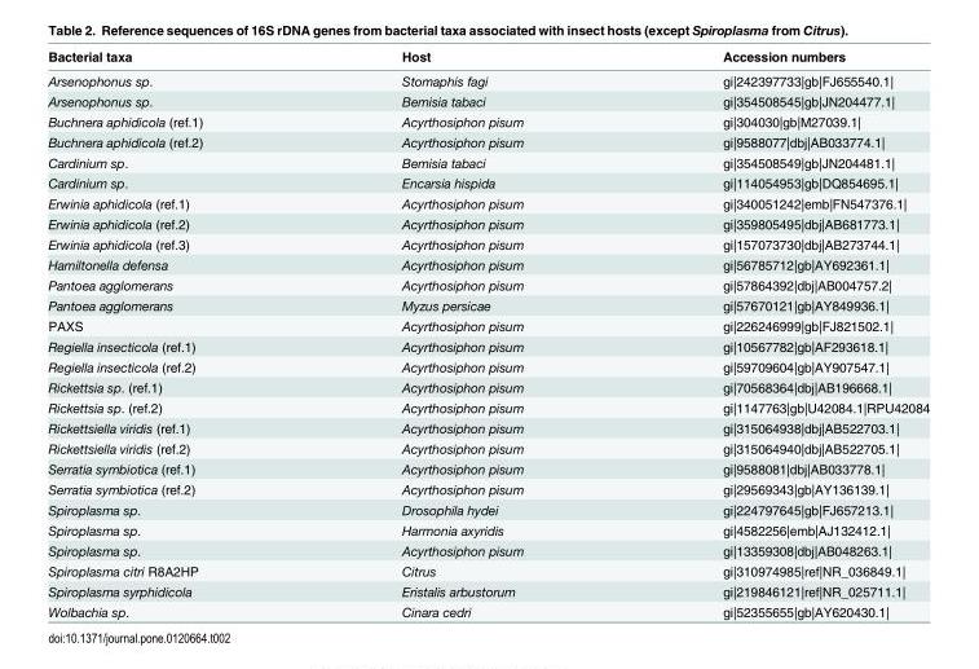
<table><thead><tr><td>Bacterial taxa</td><td>Host</td><td>Accession numbers</td></tr></thead><tbody><tr><td>Arsenophonus sp.</td><td>Stomaphis fagi</td><td>gi|242397733|gb|FJ655540.1|</td></tr><tr><td>Arsenophonus sp.</td><td>Bemisia tabaci</td><td>gi|354508545|gb|JN204477.1|</td></tr><tr><td>Buchnera aphidicola (ref.1)</td><td>Acyrthosiphon pisum</td><td>gi|304030|gb|M27039.1|</td></tr><tr><td>Buchnera aphidicola (ref.2)</td><td>Acyrthosiphon pisum</td><td>gi|9588077|dbj|AB033774.1|</td></tr><tr><td>Cardinium sp.</td><td>Bemisia tabaci</td><td>gi|354508549|gb|JN204481.1|</td></tr><tr><td>Cardinium sp.</td><td>Encarsia hispida</td><td>gi|114054953|gb|DQ854695.1|</td></tr><tr><td>Erwinia aphidicola (ref.1)</td><td>Acyrthosiphon pisum</td><td>gi|340051242|emb|FN547376.1|</td></tr><tr><td>Erwinia aphidicola (ref.2)</td><td>Acyrthosiphon pisum</td><td>gi|359805495|dbj|AB681773.1|</td></tr><tr><td>Erwinia aphidicola (ref.3)</td><td>Acyrthosiphon pisum</td><td>gi|157073730|dbj|AB273744.1|</td></tr><tr><td>Hamiltonella defensa</td><td>Acyrthosiphon pisum</td><td>gi|56785712|gb|AY692361.1|</td></tr><tr><td>Pantoea agglomerans</td><td>Acyrthosiphon pisum</td><td>gi|57864392|dbj|AB004757.2|</td></tr><tr><td>Pantoea agglomerans</td><td>Myzus persicae</td><td>gi|57670121|gb|AY849936.1|</td></tr><tr><td>PAXS</td><td>Acyrthosiphon pisum</td><td>gi|226246999|gb|FJ821502.1|</td></tr><tr><td>Regiella insecticola (ref.1)</td><td>Acyrthosiphon pisum</td><td>gi|10567782|gb|AF293618.1|</td></tr><tr><td>Regiella insecticola (ref.2)</td><td>Acyrthosiphon pisum</td><td>gi|59709604|gb|AY907547.1|</td></tr><tr><td>Rickettsia sp. (ref.1)</td><td>Acyrthosiphon pisum</td><td>gi|70568364|dbj|AB196668.1|</td></tr><tr><td>Rickettsia sp. (ref.2)</td><td>Acyrthosiphon pisum</td><td>gi|1147763|gb|U42084.1|RPU42084</td></tr><tr><td>Rickettsiella viridis (ref.1)</td><td>Acyrthosiphon pisum</td><td>gi|315064938|dbj|AB522703.1|</td></tr><tr><td>Rickettsiella viridis (ref.2)</td><td>Acyrthosiphon pisum</td><td>gi|315064940|dbj|AB522705.1|</td></tr><tr><td>Serratia symbiotica (ref.1)</td><td>Acyrthosiphon pisum</td><td>gi|9588081|dbj|AB033778.1|</td></tr><tr><td>Serratia symbiotica (ref.2)</td><td>Acyrthosiphon pisum</td><td>gi|29569343|gb|AY136139.1|</td></tr><tr><td>Spiroplasma sp.</td><td>Drosophila hydei</td><td>gi|224797645|gb|FJ657213.1|</td></tr><tr><td>Spiroplasma sp.</td><td>Harmonia axyridis</td><td>gi|4582256|emb|AJ132412.1|</td></tr><tr><td>Spiroplasma sp.</td><td>Acyrthosiphon pisum</td><td>gi|13359308|dbj|AB048263.1|</td></tr><tr><td>Spiroplasma citri R8A2HP</td><td>Citrus</td><td>gi|310974985|ref|NR_036849.1|</td></tr><tr><td>Spiroplasma syrphidicola</td><td>Eristalis arbustorum</td><td>gi|219846121|ref|NR_025711.1|</td></tr><tr><td>Wolbachia sp.</td><td>Cinara cedri</td><td>gi|52355655|gb|AY620430.1|</td></tr></tbody></table>